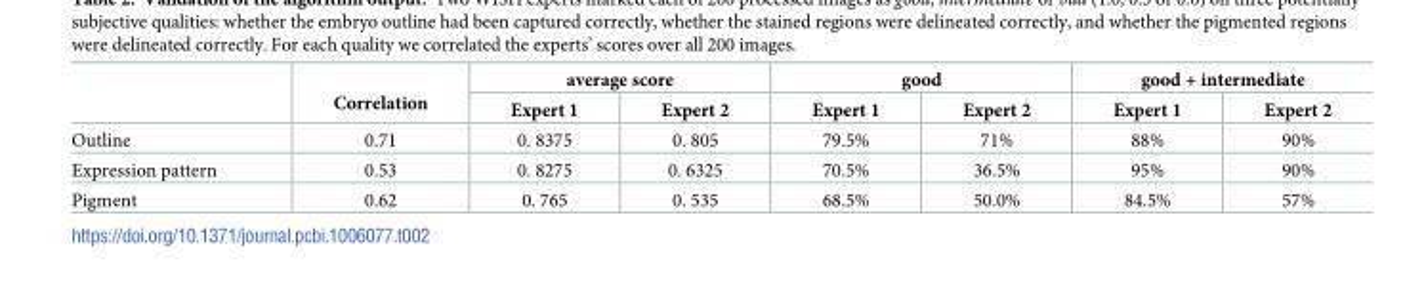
<table><thead><tr><td rowspan="2"></td><td rowspan="2">Correlation</td><td colspan="2">average score</td><td colspan="2">good</td><td colspan="2">good + intermediate</td></tr><tr><td>Expert 1</td><td>Expert 2</td><td>Expert 1</td><td>Expert 2</td><td>Expert 1</td><td>Expert 2</td></tr></thead><tbody><tr><td>Outline</td><td>0.71</td><td>0. 8375</td><td>0. 805</td><td>79.5%</td><td>71%</td><td>88%</td><td>90%</td></tr><tr><td>Expression pattern</td><td>0.53</td><td>0. 8275</td><td>0. 6325</td><td>70.5%</td><td>36.5%</td><td>95%</td><td>90%</td></tr><tr><td>Pigment</td><td>0.62</td><td>0. 765</td><td>0. 535</td><td>68.5%</td><td>50.0%</td><td>84.5%</td><td>57%</td></tr></tbody></table>